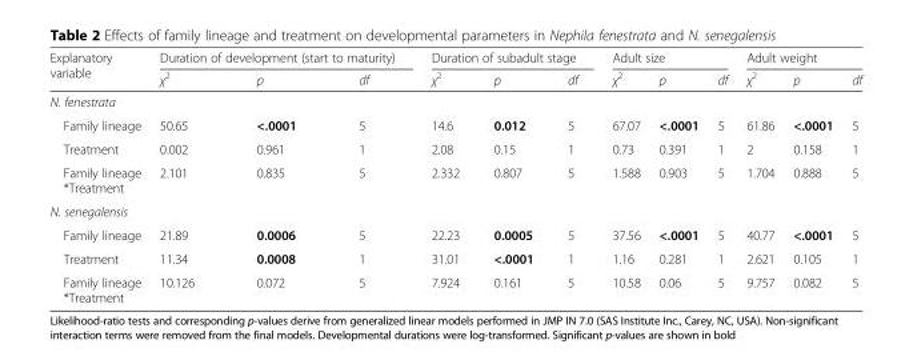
<table><thead><tr><td rowspan="2">Explanatory variable</td><td colspan="3">Duration of development (start to maturity)</td><td colspan="3">Duration of subadult stage</td><td colspan="3">Adult size</td><td colspan="3">Adult weight</td></tr><tr><td>χ<sup>2</sup></td><td>p</td><td>df</td><td>χ<sup>2</sup></td><td>p</td><td>df</td><td>χ<sup>2</sup></td><td>p</td><td>df</td><td>χ<sup>2</sup></td><td>p</td><td>df</td></tr></thead><tbody><tr><td colspan="13">N. fenestrata</td></tr><tr><td>Family lineage</td><td>50.65</td><td>&lt;.0001</td><td>5</td><td>14.6</td><td>0.012</td><td>5</td><td>67.07</td><td>&lt;.0001</td><td>5</td><td>61.86</td><td>&lt;.0001</td><td>5</td></tr><tr><td>Treatment</td><td>0.002</td><td>0.961</td><td>1</td><td>2.08</td><td>0.15</td><td>1</td><td>0.73</td><td>0.391</td><td>1</td><td>2</td><td>0.158</td><td>1</td></tr><tr><td>Family lineage *Treatment</td><td>2.101</td><td>0.835</td><td>5</td><td>2.332</td><td>0.807</td><td>5</td><td>1.588</td><td>0.903</td><td>5</td><td>1.704</td><td>0.888</td><td>5</td></tr><tr><td colspan="13">N. senegalensis</td></tr><tr><td>Family lineage</td><td>21.89</td><td>0.0006</td><td>5</td><td>22.23</td><td>0.0005</td><td>5</td><td>37.56</td><td>&lt;.0001</td><td>5</td><td>40.77</td><td>&lt;.0001</td><td>5</td></tr><tr><td>Treatment</td><td>11.34</td><td>0.0008</td><td>1</td><td>31.01</td><td>&lt;.0001</td><td>1</td><td>1.16</td><td>0.281</td><td>1</td><td>2.621</td><td>0.105</td><td>1</td></tr><tr><td>Family lineage *Treatment</td><td>10.126</td><td>0.072</td><td>5</td><td>7.924</td><td>0.161</td><td>5</td><td>10.58</td><td>0.06</td><td>5</td><td>9.757</td><td>0.082</td><td>5</td></tr></tbody></table>